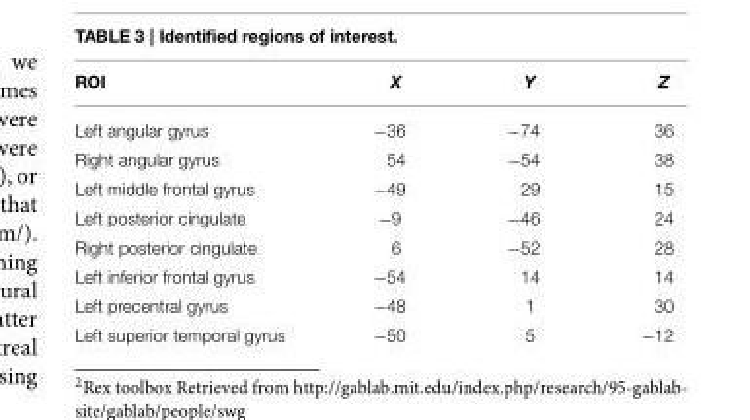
<table><thead><tr><td>ROI</td><td>X</td><td>Y</td><td>Z</td></tr></thead><tbody><tr><td>Left angular gyrus</td><td>−36</td><td>−74</td><td>36</td></tr><tr><td>Right angular gyrus</td><td>54</td><td>−54</td><td>38</td></tr><tr><td>Left middle frontal gyrus</td><td>−49</td><td>29</td><td>15</td></tr><tr><td>Left posterior cingulate</td><td>−9</td><td>−46</td><td>24</td></tr><tr><td>Right posterior cingulate</td><td>6</td><td>−52</td><td>28</td></tr><tr><td>Left inferior frontal gyrus</td><td>−54</td><td>14</td><td>14</td></tr><tr><td>Left precentral gyrus</td><td>−48</td><td>1</td><td>30</td></tr><tr><td>Left superior temporal gyrus</td><td>−50</td><td>5</td><td>−12</td></tr></tbody></table>